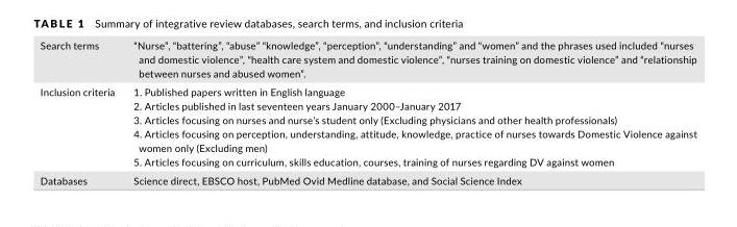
<table><tbody><tr><td>Search terms</td><td>“Nurse”, “battering”, “abuse” “knowledge”, “perception”, “understanding” and “women” and the phrases used included “nurses and domestic violence”, “health care system and domestic violence”, “nurses training on domestic violence” and “relationship between nurses and abused women”.</td></tr><tr><td>Inclusion criteria</td><td>1. Published papers written in English language 2. Articles published in last seventeen years January 2000–January 2017 3. Articles focusing on nurses and nurse’s student only (Excluding physicians and other health professionals) 4. Articles focusing on perception, understanding, attitude, knowledge, practice of nurses towards Domestic Violence against women only (Excluding men) 5. Articles focusing on curriculum, skills education, courses, training of nurses regarding DV against women</td></tr><tr><td>Databases</td><td>Science direct, EBSCO host, PubMed Ovid Medline database, and Social Science Index</td></tr></tbody></table>